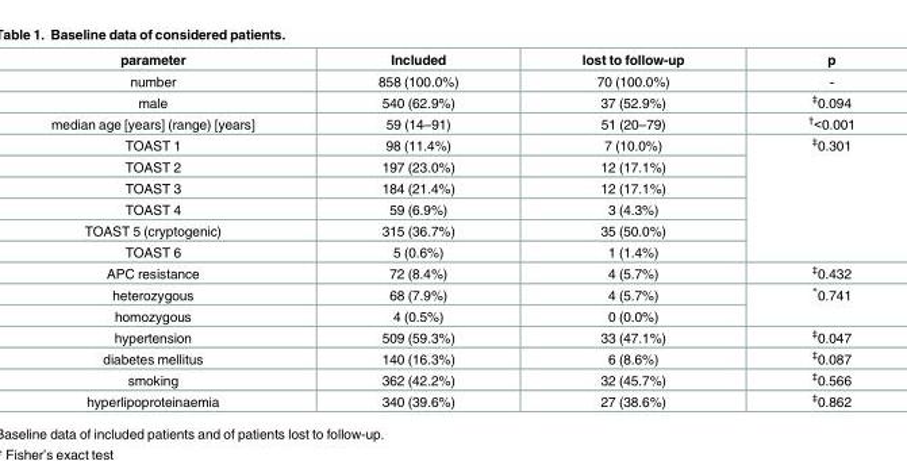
<table><thead><tr><td>parameter</td><td>Included</td><td>lost to follow-up</td><td>p</td></tr></thead><tbody><tr><td>number</td><td>858 (100.0%)</td><td>70 (100.0%)</td><td>-</td></tr><tr><td>male</td><td>540 (62.9%)</td><td>37 (52.9%)</td><td><sup>‡</sup>0.094</td></tr><tr><td>median age [years] (range) [years]</td><td>59 (14–91)</td><td>51 (20–79)</td><td><sup>†</sup>&lt;0.001</td></tr><tr><td>TOAST 1</td><td>98 (11.4%)</td><td>7 (10.0%)</td><td rowspan="6"><sup>‡</sup>0.301</td></tr><tr><td>TOAST 2</td><td>197 (23.0%)</td><td>12 (17.1%)</td></tr><tr><td>TOAST 3</td><td>184 (21.4%)</td><td>12 (17.1%)</td></tr><tr><td>TOAST 4</td><td>59 (6.9%)</td><td>3 (4.3%)</td></tr><tr><td>TOAST 5 (cryptogenic)</td><td>315 (36.7%)</td><td>35 (50.0%)</td></tr><tr><td>TOAST 6</td><td>5 (0.6%)</td><td>1 (1.4%)</td></tr><tr><td>APC resistance</td><td>72 (8.4%)</td><td>4 (5.7%)</td><td><sup>‡</sup>0.432</td></tr><tr><td>heterozygous</td><td>68 (7.9%)</td><td>4 (5.7%)</td><td rowspan="2">*0.741</td></tr><tr><td>homozygous</td><td>4 (0.5%)</td><td>0 (0.0%)</td></tr><tr><td>hypertension</td><td>509 (59.3%)</td><td>33 (47.1%)</td><td><sup>‡</sup>0.047</td></tr><tr><td>diabetes mellitus</td><td>140 (16.3%)</td><td>6 (8.6%)</td><td><sup>‡</sup>0.087</td></tr><tr><td>smoking</td><td>362 (42.2%)</td><td>32 (45.7%)</td><td><sup>‡</sup>0.566</td></tr><tr><td>hyperlipoproteinaemia</td><td>340 (39.6%)</td><td>27 (38.6%)</td><td><sup>‡</sup>0.862</td></tr></tbody></table>